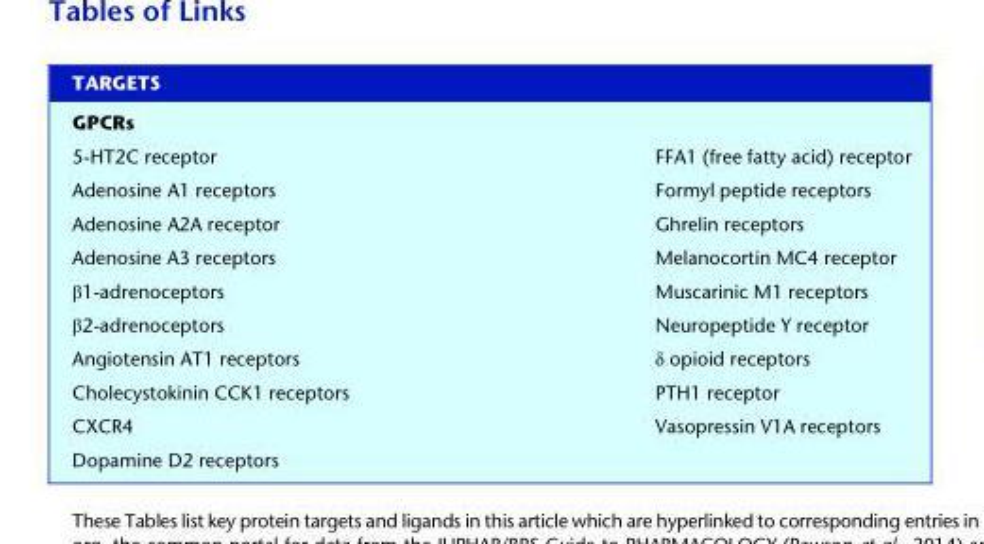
<table><thead><tr><td rowspan="2">TARGETS GPCRs</td><td rowspan="2"></td></tr><tr></tr></thead><tbody><tr><td>5-HT2C receptor</td><td>FFA1 (free fatty acid) receptor</td></tr><tr><td>Adenosine A1 receptors</td><td>Formyl peptide receptors</td></tr><tr><td>Adenosine A2A receptor</td><td>Ghrelin receptors</td></tr><tr><td>Adenosine A3 receptors</td><td>Melanocortin MC4 receptor</td></tr><tr><td>β1-adrenoceptors</td><td>Muscarinic M1 receptors</td></tr><tr><td>β2-adrenoceptors</td><td>Neuropeptide Y receptor</td></tr><tr><td>Angiotensin AT1 receptors</td><td>δ opioid receptors</td></tr><tr><td>Cholecystokinin CCK1 receptors</td><td>PTH1 receptor</td></tr><tr><td>CXCR4</td><td>Vasopressin V1A receptors</td></tr><tr><td>Dopamine D2 receptors</td><td></td></tr></tbody></table>